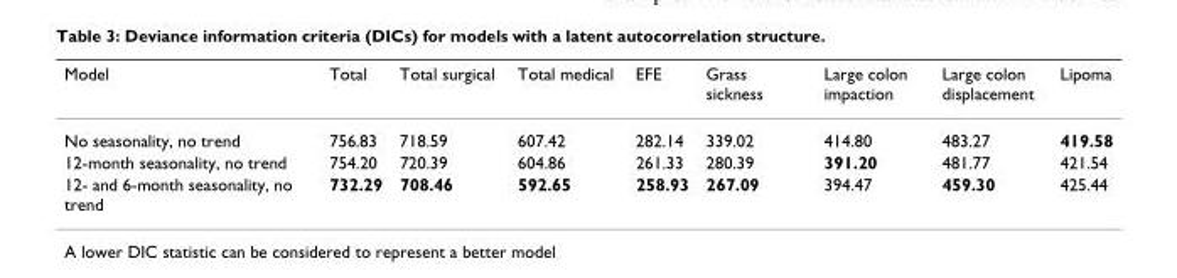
<table><thead><tr><td>Model</td><td>Total</td><td>Total surgical</td><td>Total medical</td><td>EFE</td><td>Grass sickness</td><td>Large colon impaction</td><td>Large colon displacement</td><td>Lipoma</td></tr></thead><tbody><tr><td>No seasonality, no trend</td><td>756.83</td><td>718.59</td><td>607.42</td><td>282.14</td><td>339.02</td><td>414.80</td><td>483.27</td><td>419.58</td></tr><tr><td>12-month seasonality, no trend</td><td>754.20</td><td>720.39</td><td>604.86</td><td>261.33</td><td>280.39</td><td>391.20</td><td>481.77</td><td>421.54</td></tr><tr><td>12- and 6-month seasonality, no trend</td><td>732.29</td><td>708.46</td><td>592.65</td><td>258.93</td><td>267.09</td><td>394.47</td><td>459.30</td><td>425.44</td></tr></tbody></table>